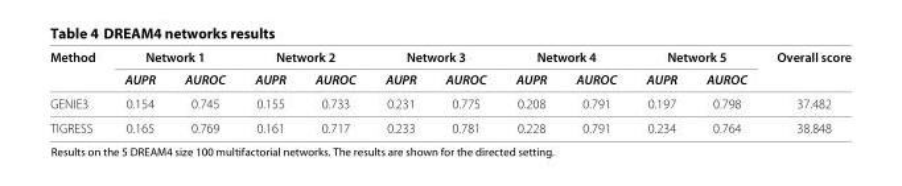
<table><thead><tr><td rowspan="2">Method</td><td colspan="2">Network 1</td><td colspan="2">Network 2</td><td colspan="2">Network 3</td><td colspan="2">Network 4</td><td colspan="2">Network 5</td><td rowspan="2">Overall score</td></tr><tr><td>AUPR</td><td>AUROC</td><td>AUPR</td><td>AUROC</td><td>AUPR</td><td>AUROC</td><td>AUPR</td><td>AUROC</td><td>AUPR</td><td>AUROC</td></tr></thead><tbody><tr><td>GENIE3</td><td>0.154</td><td>0.745</td><td>0.155</td><td>0.733</td><td>0.231</td><td>0.775</td><td>0.208</td><td>0.791</td><td>0.197</td><td>0.798</td><td>37.482</td></tr><tr><td>TIGRESS</td><td>0.165</td><td>0.769</td><td>0.161</td><td>0.717</td><td>0.233</td><td>0.781</td><td>0.228</td><td>0.791</td><td>0.234</td><td>0.764</td><td>38.848</td></tr></tbody></table>